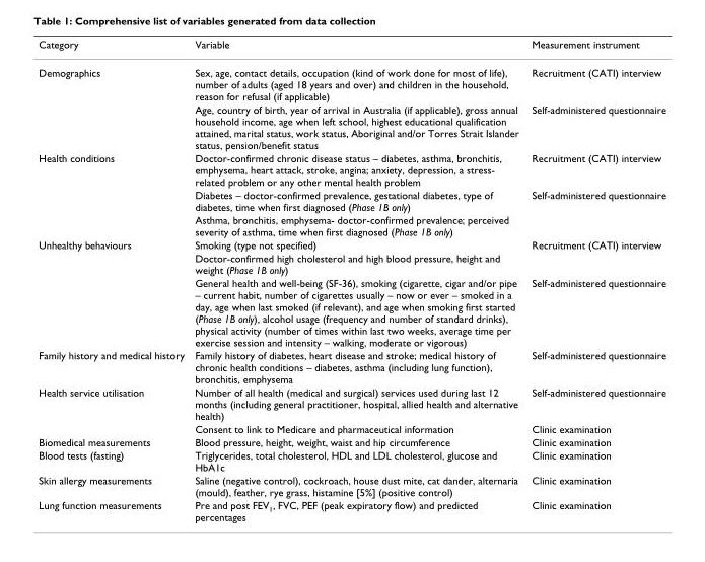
<table><thead><tr><td>Category</td><td>Variable</td><td>Measurement instrument</td></tr></thead><tbody><tr><td rowspan="2">Demographics</td><td>Sex, age, contact details, occupation (kind of work done for most of life), number of adults (aged 18 years and over) and children in the household, reason for refusal (if applicable)</td><td>Recruitment (CATI) interview</td></tr><tr><td>Age, country of birth, year of arrival in Australia (if applicable), gross annual household income, age when left school, highest educational qualification attained, marital status, work status, Aboriginal and/or Torres Strait Islander status, pension/benefit status</td><td>Self-administered questionnaire</td></tr><tr><td rowspan="3">Health conditions</td><td>Doctor-confirmed chronic disease status – diabetes, asthma, bronchitis, emphysema, heart attack, stroke, angina; anxiety, depression, a stress- related problem or any other mental health problem</td><td>Recruitment (CATI) interview</td></tr><tr><td>Diabetes – doctor-confirmed prevalence, gestational diabetes, type of diabetes, time when first diagnosed (Phase 1B only)</td><td>Self-administered questionnaire</td></tr><tr><td>Asthma, bronchitis, emphysema- doctor-confirmed prevalence; perceived severity of asthma, time when first diagnosed (Phase 1B only)</td><td></td></tr><tr><td rowspan="3">Unhealthy behaviours</td><td>Smoking (type not specified)</td><td>Recruitment (CATI) interview</td></tr><tr><td>Doctor-confirmed high cholesterol and high blood pressure, height and weight (Phase 1B only)</td><td></td></tr><tr><td>General health and well-being (SF-36), smoking (cigarette, cigar and/or pipe – current habit, number of cigarettes usually – now or ever – smoked in a day, age when last smoked (if relevant), and age when smoking first started (Phase 1B only), alcohol usage (frequency and number of standard drinks), physical activity (number of times within last two weeks, average time per exercise session and intensity – walking, moderate or vigorous)</td><td>Self-administered questionnaire</td></tr><tr><td>Family history and medical history</td><td>Family history of diabetes, heart disease and stroke; medical history of chronic health conditions – diabetes, asthma (including lung function), bronchitis, emphysema</td><td>Self-administered questionnaire</td></tr><tr><td rowspan="2">Health service utilisation</td><td>Number of all health (medical and surgical) services used during last 12 months (including general practitioner, hospital, allied health and alternative health)</td><td>Self-administered questionnaire</td></tr><tr><td>Consent to link to Medicare and pharmaceutical information</td><td>Clinic examination</td></tr><tr><td>Biomedical measurements</td><td>Blood pressure, height, weight, waist and hip circumference</td><td>Clinic examination</td></tr><tr><td>Blood tests (fasting)</td><td>Triglycerides, total cholesterol, HDL and LDL cholesterol, glucose and HbA1c</td><td>Clinic examination</td></tr><tr><td>Skin allergy measurements</td><td>Saline (negative control), cockroach, house dust mite, cat dander, alternaria (mould), feather, rye grass, histamine [5%] (positive control)</td><td>Clinic examination</td></tr><tr><td>Lung function measurements</td><td>Pre and post FEV<sub>1</sub>, FVC, PEF (peak expiratory flow) and predicted percentages</td><td>Clinic examination</td></tr></tbody></table>